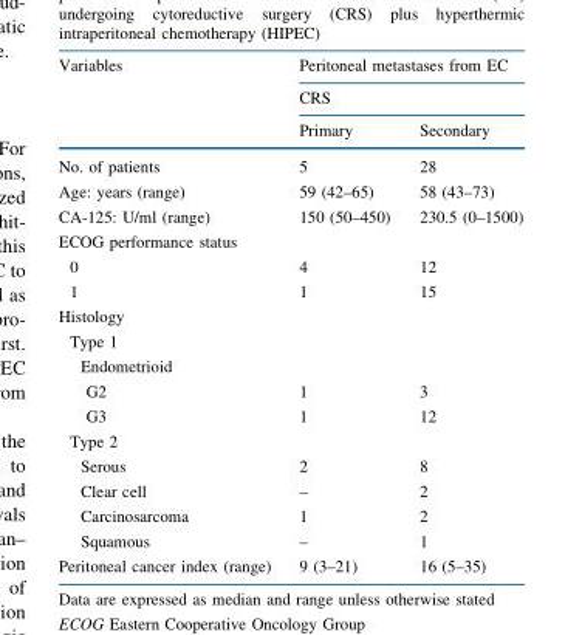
<table><thead><tr><td rowspan="3">Variables</td><td rowspan="2" colspan="2">Peritoneal metastases from EC CRS</td></tr><tr></tr><tr><td>Primary</td><td>Secondary</td></tr></thead><tbody><tr><td>No. of patients</td><td>5</td><td>28</td></tr><tr><td>Age: years (range)</td><td>59 (42–65)</td><td>58 (43–73)</td></tr><tr><td>CA-125: U/ml (range)</td><td>150 (50–450)</td><td>230.5 (0–1500)</td></tr><tr><td colspan="3">ECOG performance status</td></tr><tr><td>0</td><td>4</td><td>12</td></tr><tr><td>1</td><td>1</td><td>15</td></tr><tr><td colspan="3">Histology</td></tr><tr><td colspan="3">Type 1</td></tr><tr><td colspan="3">Endometrioid</td></tr><tr><td>G2</td><td>1</td><td>3</td></tr><tr><td>G3</td><td>1</td><td>12</td></tr><tr><td colspan="3">Type 2</td></tr><tr><td>Serous</td><td>2</td><td>8</td></tr><tr><td>Clear cell</td><td>–</td><td>2</td></tr><tr><td>Carcinosarcoma</td><td>1</td><td>2</td></tr><tr><td>Squamous</td><td>–</td><td>1</td></tr><tr><td>Peritoneal cancer index (range)</td><td>9 (3–21)</td><td>16 (5–35)</td></tr></tbody></table>